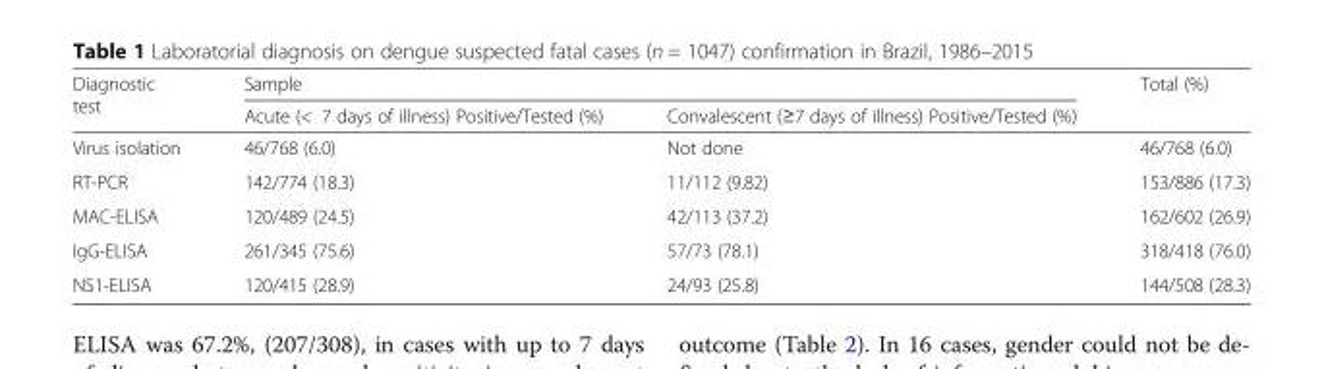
<table><thead><tr><td rowspan="2">Diagnostic test</td><td colspan="2">Sample</td><td rowspan="2">Total (%)</td></tr><tr><td>Acute (&lt; 7 days of illness) Positive/Tested (%)</td><td>Convalescent (≥7 days of illness) Positive/Tested (%)</td></tr></thead><tbody><tr><td>Virus isolation</td><td>46/768 (6.0)</td><td>Not done</td><td>46/768 (6.0)</td></tr><tr><td>RT-PCR</td><td>142/774 (18.3)</td><td>11/112 (9.82)</td><td>153/886 (17.3)</td></tr><tr><td>MAC-ELISA</td><td>120/489 (24.5)</td><td>42/113 (37.2)</td><td>162/602 (26.9)</td></tr><tr><td>IgG-ELISA</td><td>261/345 (75.6)</td><td>57/73 (78.1)</td><td>318/418 (76.0)</td></tr><tr><td>NS1-ELISA</td><td>120/415 (28.9)</td><td>24/93 (25.8)</td><td>144/508 (28.3)</td></tr></tbody></table>